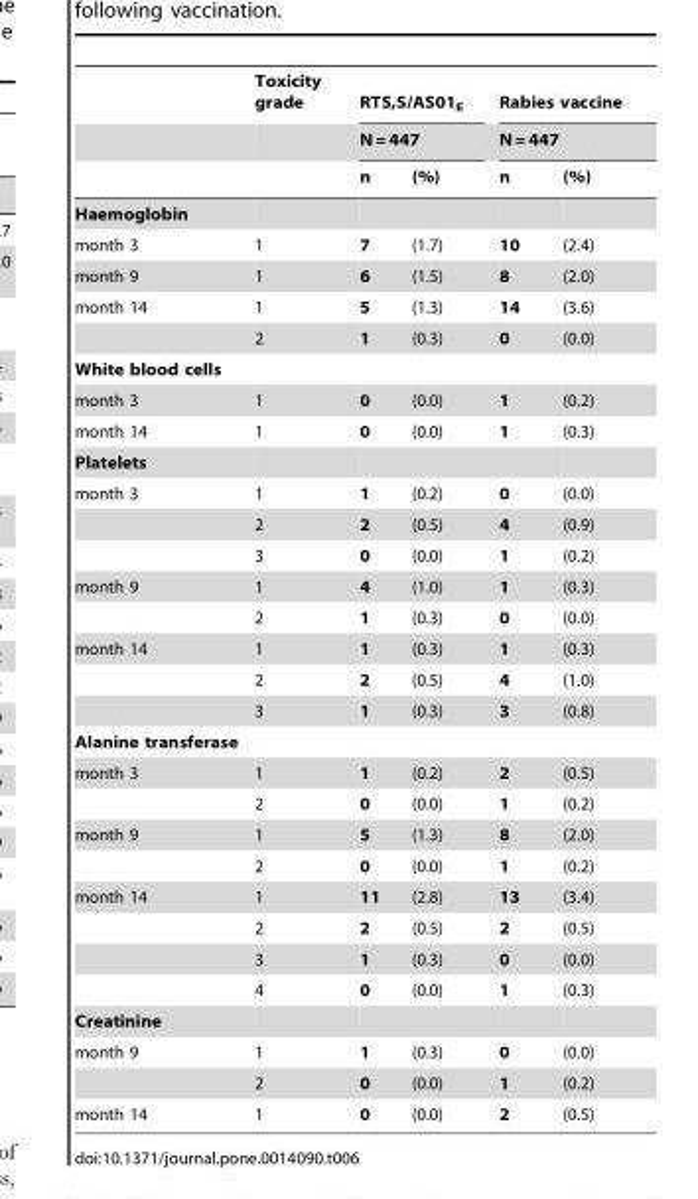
<table><thead><tr><td rowspan="3"></td><td rowspan="3">Toxicity grade</td><td rowspan="2" colspan="2">RTS,S/AS01<sub>E</sub> N = 447</td><td rowspan="2" colspan="2">Rabies vaccine N = 447</td></tr><tr></tr><tr><td>n</td><td>(%)</td><td>n</td><td>(%)</td></tr></thead><tbody><tr><td colspan="6">Haemoglobin</td></tr><tr><td>month 3</td><td>1</td><td>7</td><td>(1.7)</td><td>10</td><td>(2.4)</td></tr><tr><td>month 9</td><td>1</td><td>6</td><td>(1.5)</td><td>8</td><td>(2.0)</td></tr><tr><td rowspan="2">month 14</td><td>1</td><td>5</td><td>(1.3)</td><td>14</td><td>(3.6)</td></tr><tr><td>2</td><td>1</td><td>(0.3)</td><td>0</td><td>(0.0)</td></tr><tr><td colspan="6">White blood cells</td></tr><tr><td>month 3</td><td>1</td><td>0</td><td>(0.0)</td><td>1</td><td>(0.2)</td></tr><tr><td>month 14</td><td>1</td><td>0</td><td>(0.0)</td><td>1</td><td>(0.3)</td></tr><tr><td colspan="6">Platelets</td></tr><tr><td rowspan="3">month 3</td><td>1</td><td>1</td><td>(0.2)</td><td>0</td><td>(0.0)</td></tr><tr><td>2</td><td>2</td><td>(0.5)</td><td>4</td><td>(0.9)</td></tr><tr><td>3</td><td>0</td><td>(0.0)</td><td>1</td><td>(0.2)</td></tr><tr><td rowspan="2">month 9</td><td>1</td><td>4</td><td>(1.0)</td><td>1</td><td>(0.3)</td></tr><tr><td>2</td><td>1</td><td>(0.3)</td><td>0</td><td>(0.0)</td></tr><tr><td rowspan="3">month 14</td><td>1</td><td>1</td><td>(0.3)</td><td>1</td><td>(0.3)</td></tr><tr><td>2</td><td>2</td><td>(0.5)</td><td>4</td><td>(1.0)</td></tr><tr><td>3</td><td>1</td><td>(0.3)</td><td>3</td><td>(0.8)</td></tr><tr><td colspan="6">Alanine transferase</td></tr><tr><td rowspan="2">month 3</td><td>1</td><td>1</td><td>(0.2)</td><td>2</td><td>(0.5)</td></tr><tr><td>2</td><td>0</td><td>(0.0)</td><td>1</td><td>(0.2)</td></tr><tr><td rowspan="2">month 9</td><td>1</td><td>5</td><td>(1.3)</td><td>8</td><td>(2.0)</td></tr><tr><td>2</td><td>0</td><td>(0.0)</td><td>1</td><td>(0.2)</td></tr><tr><td rowspan="4">month 14</td><td>1</td><td>11</td><td>(2.8)</td><td>13</td><td>(3.4)</td></tr><tr><td>2</td><td>2</td><td>(0.5)</td><td>2</td><td>(0.5)</td></tr><tr><td>3</td><td>1</td><td>(0.3)</td><td>0</td><td>(0.0)</td></tr><tr><td>4</td><td>0</td><td>(0.0)</td><td>1</td><td>(0.3)</td></tr><tr><td colspan="6">Creatinine</td></tr><tr><td rowspan="2">month 9</td><td>1</td><td>1</td><td>(0.3)</td><td>0</td><td>(0.0)</td></tr><tr><td>2</td><td>0</td><td>(0.0)</td><td>1</td><td>(0.2)</td></tr><tr><td>month 14</td><td>1</td><td>0</td><td>(0.0)</td><td>2</td><td>(0.5)</td></tr></tbody></table>